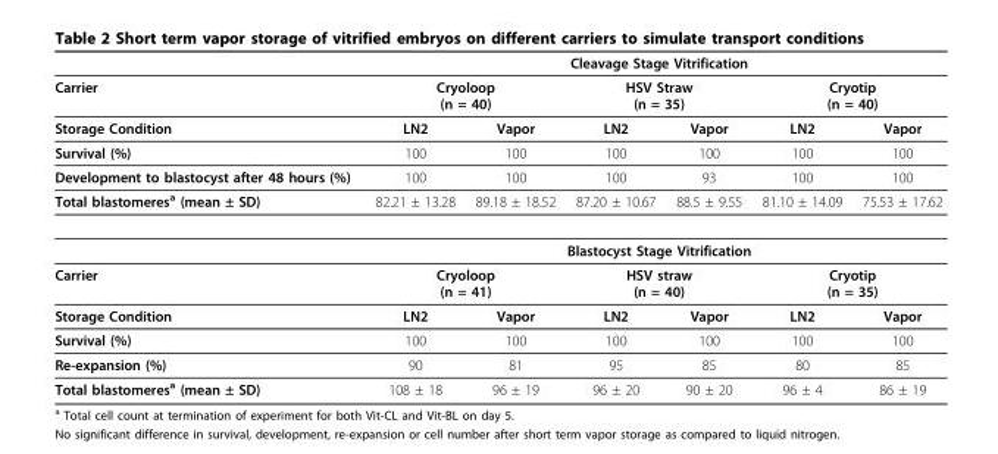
<table><thead><tr><td rowspan="3">Carrier Storage Condition</td><td colspan="6">Cleavage Stage Vitrification</td></tr><tr><td colspan="2">Cryoloop (n = 40)</td><td colspan="2">HSV Straw (n = 35)</td><td colspan="2">Cryotip (n = 40)</td></tr><tr><td>LN2</td><td>Vapor</td><td>LN2</td><td>Vapor</td><td>LN2</td><td>Vapor</td></tr></thead><tbody><tr><td>Survival (%)</td><td>100</td><td>100</td><td>100</td><td>100</td><td>100</td><td>100</td></tr><tr><td>Development to blastocyst after 48 hours (%)</td><td>100</td><td>100</td><td>100</td><td>93</td><td>100</td><td>100</td></tr><tr><td rowspan="2">Total blastomeresa (mean ± SD)</td><td>82.21 ± 13.28</td><td>89.18 ± 18.52</td><td>87.20 ± 10.67</td><td>88.5 ± 9.55</td><td>81.10 ± 14.09</td><td>75.53 ± 17.62</td></tr><tr><td colspan="6">Blastocyst Stage Vitrification</td></tr><tr><td>Carrier</td><td colspan="2">Cryoloop (n = 41)</td><td colspan="2">HSV straw (n = 40)</td><td colspan="2">Cryotip (n = 35)</td></tr><tr><td>Storage Condition</td><td>LN2</td><td>Vapor</td><td>LN2</td><td>Vapor</td><td>LN2</td><td>Vapor</td></tr><tr><td>Survival (%)</td><td>100</td><td>100</td><td>100</td><td>100</td><td>100</td><td>100</td></tr><tr><td>Re-expansion (%)</td><td>90</td><td>81</td><td>95</td><td>85</td><td>80</td><td>85</td></tr><tr><td>Total blastomeresa (mean ± SD)</td><td>108 ± 18</td><td>96 ± 19</td><td>96 ± 20</td><td>90 ± 20</td><td>96 ± 4</td><td>86 ± 19</td></tr></tbody></table>